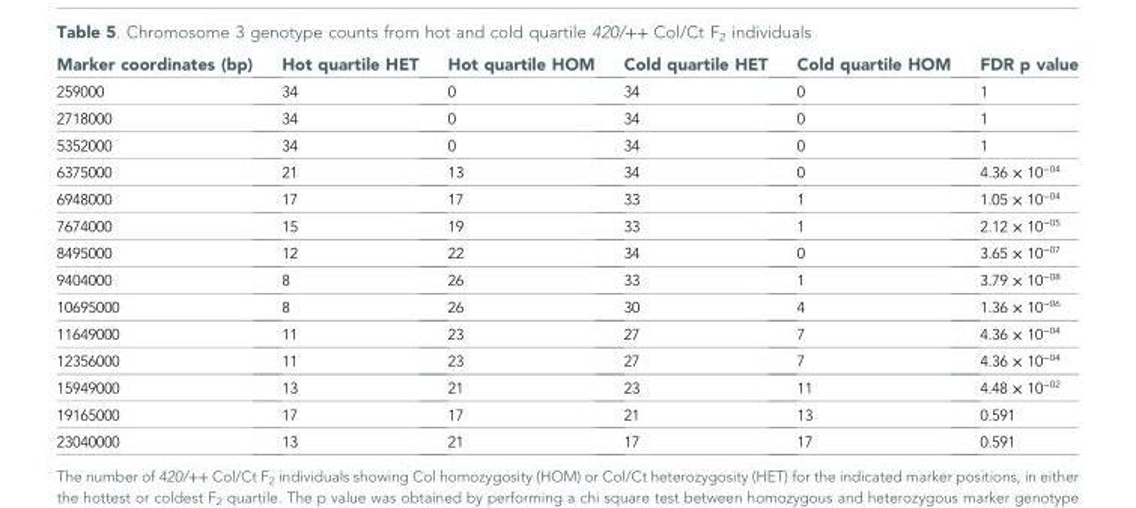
<table><thead><tr><td>Marker coordinates (bp)</td><td>Hot quartile HET</td><td>Hot quartile HOM</td><td>Cold quartile HET</td><td>Cold quartile HOM</td><td>FDR p value</td></tr></thead><tbody><tr><td>259000</td><td>34</td><td>0</td><td>34</td><td>0</td><td>1</td></tr><tr><td>2718000</td><td>34</td><td>0</td><td>34</td><td>0</td><td>1</td></tr><tr><td>5352000</td><td>34</td><td>0</td><td>34</td><td>0</td><td>1</td></tr><tr><td>6375000</td><td>21</td><td>13</td><td>34</td><td>0</td><td>4.36 × 10<sup>−04</sup></td></tr><tr><td>6948000</td><td>17</td><td>17</td><td>33</td><td>1</td><td>1.05 × 10<sup>−04</sup></td></tr><tr><td>7674000</td><td>15</td><td>19</td><td>33</td><td>1</td><td>2.12 × 10<sup>−05</sup></td></tr><tr><td>8495000</td><td>12</td><td>22</td><td>34</td><td>0</td><td>3.65 × 10<sup>−07</sup></td></tr><tr><td>9404000</td><td>8</td><td>26</td><td>33</td><td>1</td><td>3.79 × 10<sup>−08</sup></td></tr><tr><td>10695000</td><td>8</td><td>26</td><td>30</td><td>4</td><td>1.36 × 10<sup>−06</sup></td></tr><tr><td>11649000</td><td>11</td><td>23</td><td>27</td><td>7</td><td>4.36 × 10<sup>−04</sup></td></tr><tr><td>12356000</td><td>11</td><td>23</td><td>27</td><td>7</td><td>4.36 × 10<sup>−04</sup></td></tr><tr><td>15949000</td><td>13</td><td>21</td><td>23</td><td>11</td><td>4.48 × 10<sup>−02</sup></td></tr><tr><td>19165000</td><td>17</td><td>17</td><td>21</td><td>13</td><td>0.591</td></tr><tr><td>23040000</td><td>13</td><td>21</td><td>17</td><td>17</td><td>0.591</td></tr></tbody></table>